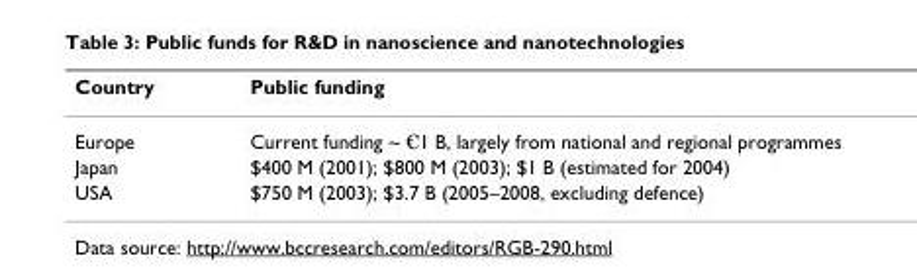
<table><thead><tr><td>Country</td><td>Public funding</td></tr></thead><tbody><tr><td>Europe</td><td>Current funding ~ €1 B, largely from national and regional programmes</td></tr><tr><td>Japan</td><td>$400 M (2001); $800 M (2003); $1 B (estimated for 2004)</td></tr><tr><td>USA</td><td>$750 M (2003); $3.7 B (2005–2008, excluding defence)</td></tr></tbody></table>